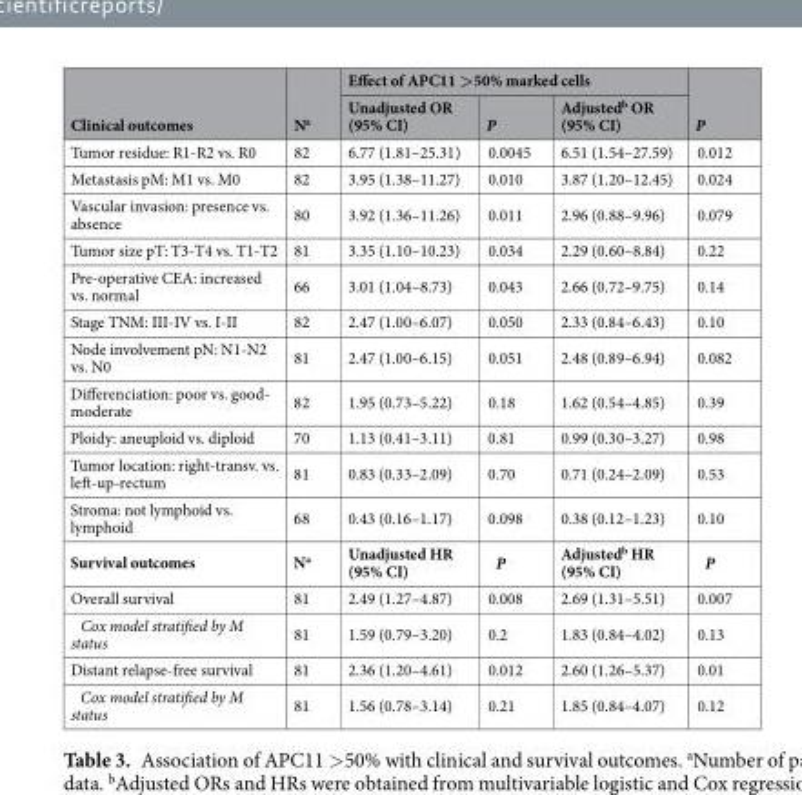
<table><thead><tr><td rowspan="2">Clinical outcomes</td><td rowspan="2">N<sup>a</sup></td><td colspan="3">Effect of APC11 &gt;50% marked cells</td><td rowspan="2">P</td></tr><tr><td>Unadjusted OR (95% CI)</td><td>P</td><td>Adjusted<sup>b</sup> OR (95% CI)</td></tr></thead><tbody><tr><td>Tumor residue: R1-R2 vs. R0</td><td>82</td><td>6.77 (1.81–25.31)</td><td>0.0045</td><td>6.51 (1.54–27.59)</td><td>0.012</td></tr><tr><td>Metastasis pM: M1 vs. M0</td><td>82</td><td>3.95 (1.38–11.27)</td><td>0.010</td><td>3.87 (1.20–12.45)</td><td>0.024</td></tr><tr><td>Vascular invasion: presence vs. absence</td><td>80</td><td>3.92 (1.36–11.26)</td><td>0.011</td><td>2.96 (0.88–9.96)</td><td>0.079</td></tr><tr><td>Tumor size pT: T3-T4 vs. T1-T2</td><td>81</td><td>3.35 (1.10–10.23)</td><td>0.034</td><td>2.29 (0.60–8.84)</td><td>0.22</td></tr><tr><td>Pre-operative CEA: increased vs. normal</td><td>66</td><td>3.01 (1.04–8.73)</td><td>0.043</td><td>2.66 (0.72–9.75)</td><td>0.14</td></tr><tr><td>Stage TNM: III-IV vs. I-II</td><td>82</td><td>2.47 (1.00–6.07)</td><td>0.050</td><td>2.33 (0.84–6.43)</td><td>0.10</td></tr><tr><td>Node involvement pN: N1-N2 vs. N0</td><td>81</td><td>2.47 (1.00–6.15)</td><td>0.051</td><td>2.48 (0.89–6.94)</td><td>0.082</td></tr><tr><td>Differenciation: poor vs. good- moderate</td><td>82</td><td>1.95 (0.73–5.22)</td><td>0.18</td><td>1.62 (0.54–4.85)</td><td>0.39</td></tr><tr><td>Ploidy: aneuploid vs. diploid</td><td>70</td><td>1.13 (0.41–3.11)</td><td>0.81</td><td>0.99 (0.30–3.27)</td><td>0.98</td></tr><tr><td>Tumor location: right-transv. vs. left-up-rectum</td><td>81</td><td>0.83 (0.33–2.09)</td><td>0.70</td><td>0.71 (0.24–2.09)</td><td>0.53</td></tr><tr><td>Stroma: not lymphoid vs. lymphoid</td><td>68</td><td>0.43 (0.16–1.17)</td><td>0.098</td><td>0.38 (0.12–1.23)</td><td>0.10</td></tr><tr><td>Survival outcomes</td><td>N<sup>a</sup></td><td>Unadjusted HR (95% CI)</td><td>P</td><td>Adjusted<sup>b</sup> HR (95% CI)</td><td>P</td></tr><tr><td>Overall survival</td><td>81</td><td>2.49 (1.27–4.87)</td><td>0.008</td><td>2.69 (1.31–5.51)</td><td>0.007</td></tr><tr><td>Cox model stratified by M status</td><td>81</td><td>1.59 (0.79–3.20)</td><td>0.2</td><td>1.83 (0.84–4.02)</td><td>0.13</td></tr><tr><td>Distant relapse-free survival</td><td>81</td><td>2.36 (1.20–4.61)</td><td>0.012</td><td>2.60 (1.26–5.37)</td><td>0.01</td></tr><tr><td>Cox model stratified by M status</td><td>81</td><td>1.56 (0.78–3.14)</td><td>0.21</td><td>1.85 (0.84–4.07)</td><td>0.12</td></tr></tbody></table>